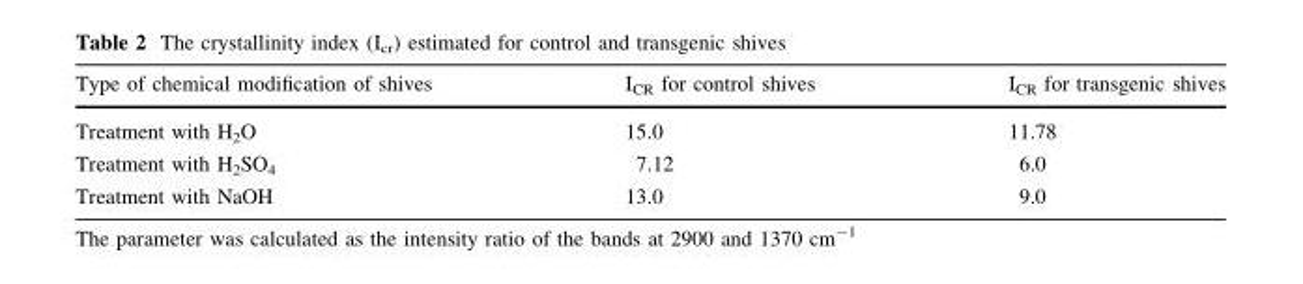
<table><thead><tr><td>Type of chemical modification of shives</td><td>I<sub>CR</sub> for control shives</td><td>I<sub>CR</sub> for transgenic shives</td></tr></thead><tbody><tr><td>Treatment with H<sub>2</sub>O</td><td>15.0</td><td>11.78</td></tr><tr><td>Treatment with H<sub>2</sub>SO<sub>4</sub></td><td>7.12</td><td>6.0</td></tr><tr><td>Treatment with NaOH</td><td>13.0</td><td>9.0</td></tr></tbody></table>